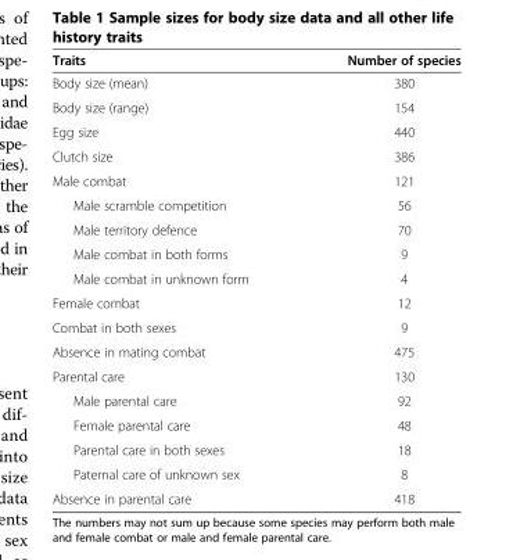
<table><thead><tr><td>Traits</td><td>Number of species</td></tr></thead><tbody><tr><td>Body size (mean)</td><td>380</td></tr><tr><td>Body size (range)</td><td>154</td></tr><tr><td>Egg size</td><td>440</td></tr><tr><td>Clutch size</td><td>386</td></tr><tr><td>Male combat</td><td>121</td></tr><tr><td>Male scramble competition</td><td>56</td></tr><tr><td>Male territory defence</td><td>70</td></tr><tr><td>Male combat in both forms</td><td>9</td></tr><tr><td>Male combat in unknown form</td><td>4</td></tr><tr><td>Female combat</td><td>12</td></tr><tr><td>Combat in both sexes</td><td>9</td></tr><tr><td>Absence in mating combat</td><td>475</td></tr><tr><td>Parental care</td><td>130</td></tr><tr><td>Male parental care</td><td>92</td></tr><tr><td>Female parental care</td><td>48</td></tr><tr><td>Parental care in both sexes</td><td>18</td></tr><tr><td>Paternal care of unknown sex</td><td>8</td></tr><tr><td>Absence in parental care</td><td>418</td></tr></tbody></table>